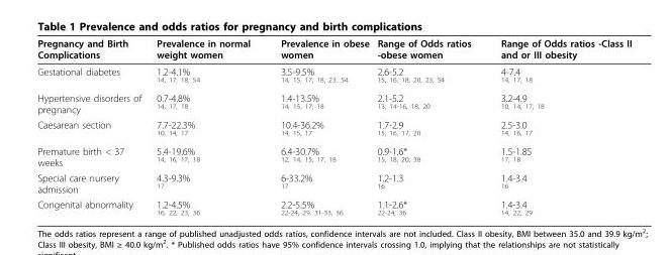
<table><thead><tr><td>Pregnancy and Birth Complications</td><td>Prevalence in normal weight women</td><td>Prevalence in obese women</td><td>Range of Odds ratios -obese women</td><td>Range of Odds ratios -Class II and or III obesity</td></tr></thead><tbody><tr><td>Gestational diabetes</td><td>1.2-4.1% <sup>14, 17, 18, 54</sup></td><td>3.5-9.5% <sup>14, 15, 17, 18, 23, 54</sup></td><td>2.6-5.2 <sup>15, 16, 18, 20, 23, 54</sup></td><td>4-7.4 <sup>14, 17, 18</sup></td></tr><tr><td>Hypertensive disorders of pregnancy</td><td>0.7-4.8% <sup>14, 17, 18</sup></td><td>1.4-13.5% <sup>14, 15, 17, 18</sup></td><td>2.1-5.2 <sup>13, 14-16, 18, 20</sup></td><td>3.2-4.9 <sup>10, 14, 17, 18</sup></td></tr><tr><td>Caesarean section</td><td>7.7-22.3% <sup>10, 14, 17</sup></td><td>10.4-36.2% <sup>14, 15, 17</sup></td><td>1.7-2.9 <sup>15, 16, 17, 20</sup></td><td>2.5-3.0 <sup>14, 16, 17</sup></td></tr><tr><td>Premature birth &lt; 37 weeks</td><td>5.4-19.6% <sup>14, 16, 17, 18</sup></td><td>6.4-30.7% <sup>12, 14, 15, 17, 18</sup></td><td>0.9-1.6* <sup>15, 18, 20, 38</sup></td><td>1.5-1.85 <sup>17, 18</sup></td></tr><tr><td>Special care nursery admission</td><td>4.3-9.3% <sup>17</sup></td><td>6-33.2% <sup>17</sup></td><td>1.2-1.3 <sup>16</sup></td><td>1.4-3.4 <sup>16</sup></td></tr><tr><td>Congenital abnormality</td><td>1.2-4.5% <sup>16, 22, 23, 36</sup></td><td>2.2-5.5% <sup>22-24, 29, 31-33, 36</sup></td><td>1.1-2.6* <sup>22-24, 36</sup></td><td>1.4-3.4 <sup>14, 22, 29</sup></td></tr></tbody></table>